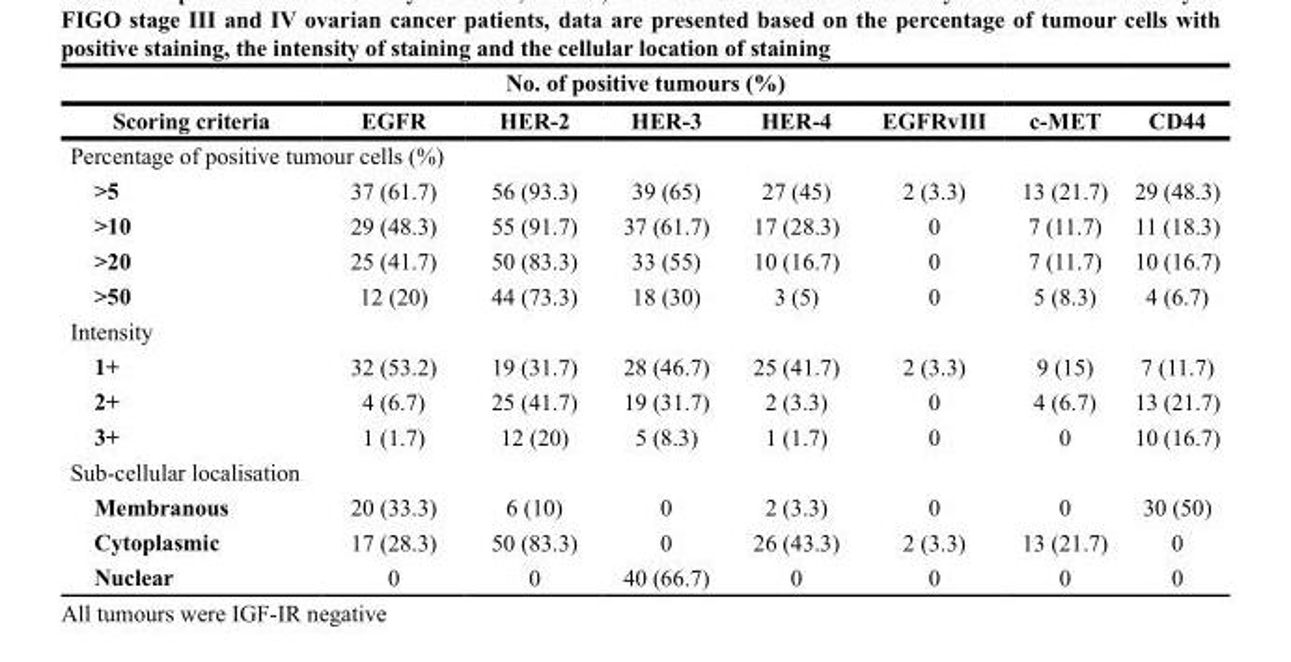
<table><thead><tr><td colspan="8">No. of positive tumours (%)</td></tr><tr><td>Scoring criteria</td><td>EGFR</td><td>HER-2</td><td>HER-3</td><td>HER-4</td><td>EGFRvIII</td><td>c-MET</td><td>CD44</td></tr></thead><tbody><tr><td colspan="8">Percentage of positive tumour cells (%)</td></tr><tr><td>&gt;5</td><td>37 (61.7)</td><td>56 (93.3)</td><td>39 (65)</td><td>27 (45)</td><td>2 (3.3)</td><td>13 (21.7)</td><td>29 (48.3)</td></tr><tr><td>&gt;10</td><td>29 (48.3)</td><td>55 (91.7)</td><td>37 (61.7)</td><td>17 (28.3)</td><td>0</td><td>7 (11.7)</td><td>11 (18.3)</td></tr><tr><td>&gt;20</td><td>25 (41.7)</td><td>50 (83.3)</td><td>33 (55)</td><td>10 (16.7)</td><td>0</td><td>7 (11.7)</td><td>10 (16.7)</td></tr><tr><td>&gt;50</td><td>12 (20)</td><td>44 (73.3)</td><td>18 (30)</td><td>3 (5)</td><td>0</td><td>5 (8.3)</td><td>4 (6.7)</td></tr><tr><td colspan="8">Intensity</td></tr><tr><td>1+</td><td>32 (53.2)</td><td>19 (31.7)</td><td>28 (46.7)</td><td>25 (41.7)</td><td>2 (3.3)</td><td>9 (15)</td><td>7 (11.7)</td></tr><tr><td>2+</td><td>4 (6.7)</td><td>25 (41.7)</td><td>19 (31.7)</td><td>2 (3.3)</td><td>0</td><td>4 (6.7)</td><td>13 (21.7)</td></tr><tr><td>3+</td><td>1 (1.7)</td><td>12 (20)</td><td>5 (8.3)</td><td>1 (1.7)</td><td>0</td><td>0</td><td>10 (16.7)</td></tr><tr><td colspan="8">Sub-cellular localisation</td></tr><tr><td>Membranous</td><td>20 (33.3)</td><td>6 (10)</td><td>0</td><td>2 (3.3)</td><td>0</td><td>0</td><td>30 (50)</td></tr><tr><td>Cytoplasmic</td><td>17 (28.3)</td><td>50 (83.3)</td><td>0</td><td>26 (43.3)</td><td>2 (3.3)</td><td>13 (21.7)</td><td>0</td></tr><tr><td>Nuclear</td><td>0</td><td>0</td><td>40 (66.7)</td><td>0</td><td>0</td><td>0</td><td>0</td></tr></tbody></table>